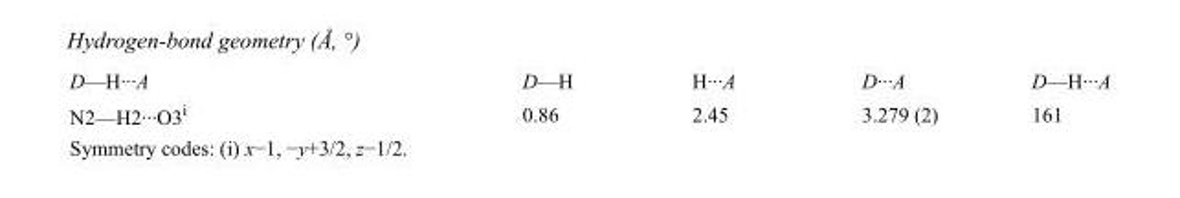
<table><tbody><tr><td>D—H···A</td><td>D—H</td><td>H···A</td><td>D···A</td><td>D—H···A</td></tr><tr><td>N2—H2···O3<sup>i</sup></td><td>0.86</td><td>2.45</td><td>3.279 (2)</td><td>161</td></tr></tbody></table>